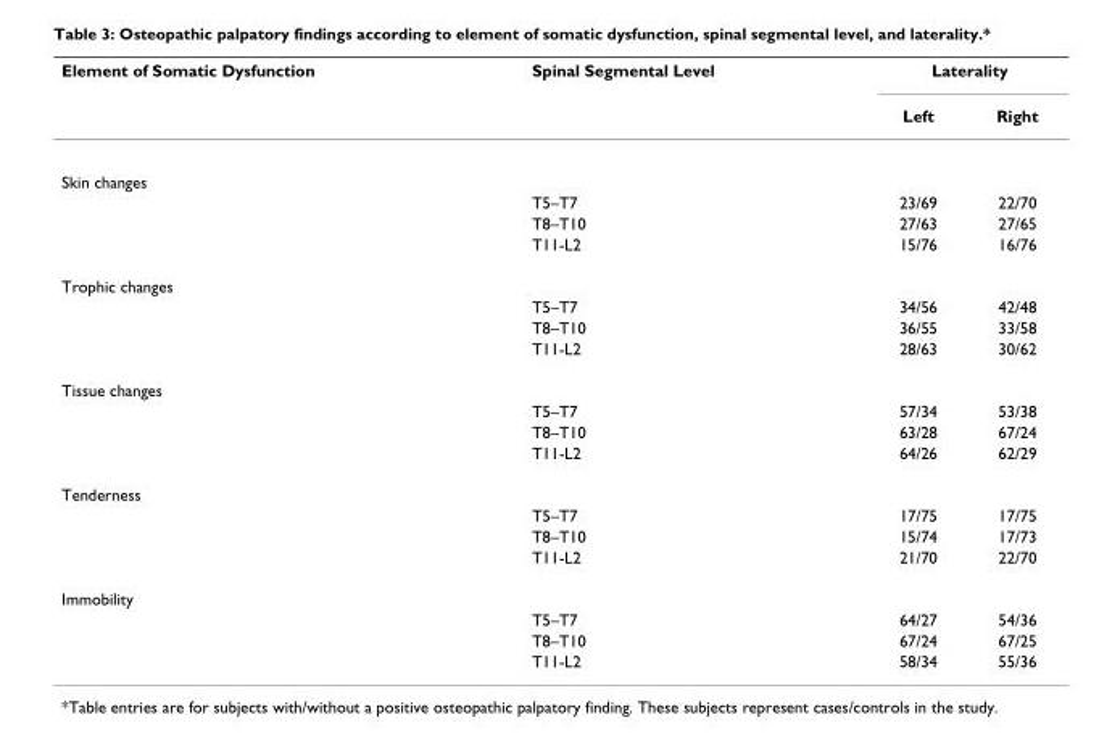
<table><thead><tr><td rowspan="2">Element of Somatic Dysfunction</td><td rowspan="2">Spinal Segmental Level</td><td colspan="2">Laterality</td></tr><tr><td>Left</td><td>Right</td></tr></thead><tbody><tr><td colspan="4">Skin changes</td></tr><tr><td></td><td>T5–T7</td><td>23/69</td><td>22/70</td></tr><tr><td></td><td>T8–T10</td><td>27/63</td><td>27/65</td></tr><tr><td></td><td>T11-L2</td><td>15/76</td><td>16/76</td></tr><tr><td colspan="4">Trophic changes</td></tr><tr><td></td><td>T5–T7</td><td>34/56</td><td>42/48</td></tr><tr><td></td><td>T8–T10</td><td>36/55</td><td>33/58</td></tr><tr><td></td><td>T11-L2</td><td>28/63</td><td>30/62</td></tr><tr><td colspan="4">Tissue changes</td></tr><tr><td></td><td>T5–T7</td><td>57/34</td><td>53/38</td></tr><tr><td></td><td>T8–T10</td><td>63/28</td><td>67/24</td></tr><tr><td></td><td>T11-L2</td><td>64/26</td><td>62/29</td></tr><tr><td colspan="4">Tenderness</td></tr><tr><td></td><td>T5–T7</td><td>17/75</td><td>17/75</td></tr><tr><td></td><td>T8–T10</td><td>15/74</td><td>17/73</td></tr><tr><td></td><td>T11-L2</td><td>21/70</td><td>22/70</td></tr><tr><td colspan="4">Immobility</td></tr><tr><td></td><td>T5–T7</td><td>64/27</td><td>54/36</td></tr><tr><td></td><td>T8–T10</td><td>67/24</td><td>67/25</td></tr><tr><td></td><td>T11-L2</td><td>58/34</td><td>55/36</td></tr></tbody></table>